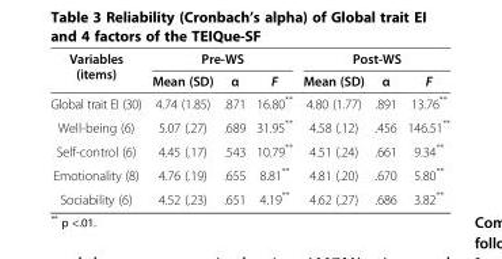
<table><thead><tr><td rowspan="2">Variables (items)</td><td colspan="3">Pre-WS</td><td colspan="3">Post-WS</td></tr><tr><td>Mean (SD)</td><td>α</td><td>F</td><td>Mean (SD)</td><td>α</td><td>F</td></tr></thead><tbody><tr><td>Global trait EI (30)</td><td>4.74 (1.85)</td><td>.871</td><td>16.80**</td><td>4.80 (1.77)</td><td>.891</td><td>13.76**</td></tr><tr><td>Well-being (6)</td><td>5.07 (.27)</td><td>.689</td><td>31.95**</td><td>4.58 (.12)</td><td>.456</td><td>146.51**</td></tr><tr><td>Self-control (6)</td><td>4.45 (.17)</td><td>.543</td><td>10.79**</td><td>4.51 (.24)</td><td>.661</td><td>9.34**</td></tr><tr><td>Emotionality (8)</td><td>4.76 (.19)</td><td>.655</td><td>8.81**</td><td>4.81 (.20)</td><td>.670</td><td>5.80**</td></tr><tr><td>Sociability (6)</td><td>4.52 (.23)</td><td>.651</td><td>4.19**</td><td>4.62 (.27)</td><td>.686</td><td>3.82**</td></tr></tbody></table>